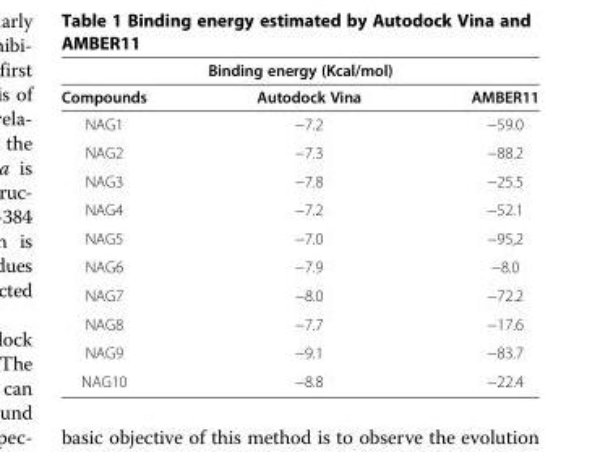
<table><thead><tr><td colspan="3">Binding energy (Kcal/mol)</td></tr><tr><td>Compounds</td><td>Autodock Vina</td><td>AMBER11</td></tr></thead><tbody><tr><td>NAG1</td><td>−7.2</td><td>−59.0</td></tr><tr><td>NAG2</td><td>−7.3</td><td>−88.2</td></tr><tr><td>NAG3</td><td>−7.8</td><td>−25.5</td></tr><tr><td>NAG4</td><td>−7.2</td><td>−52.1</td></tr><tr><td>NAG5</td><td>−7.0</td><td>−95,2</td></tr><tr><td>NAG6</td><td>−7.9</td><td>−8.0</td></tr><tr><td>NAG7</td><td>−8.0</td><td>−72.2</td></tr><tr><td>NAG8</td><td>−7.7</td><td>−17.6</td></tr><tr><td>NAG9</td><td>−9.1</td><td>−83.7</td></tr><tr><td>NAG10</td><td>−8.8</td><td>−22.4</td></tr></tbody></table>